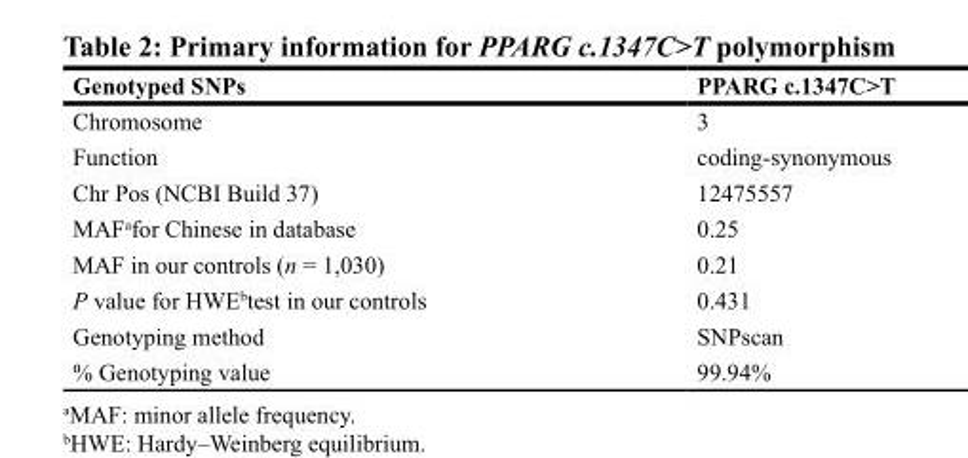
<table><thead><tr><td>Genotyped SNPs</td><td>PPARG c.1347C&gt;T</td></tr></thead><tbody><tr><td>Chromosome</td><td>3</td></tr><tr><td>Function</td><td>coding-synonymous</td></tr><tr><td>Chr Pos (NCBI Build 37)</td><td>12475557</td></tr><tr><td>MAF<sup>a</sup>for Chinese in database</td><td>0.25</td></tr><tr><td>MAF in our controls (n = 1,030)</td><td>0.21</td></tr><tr><td>P value for HWE<sup>b</sup>test in our controls</td><td>0.431</td></tr><tr><td>Genotyping method</td><td>SNPscan</td></tr><tr><td>% Genotyping value</td><td>99.94%</td></tr></tbody></table>